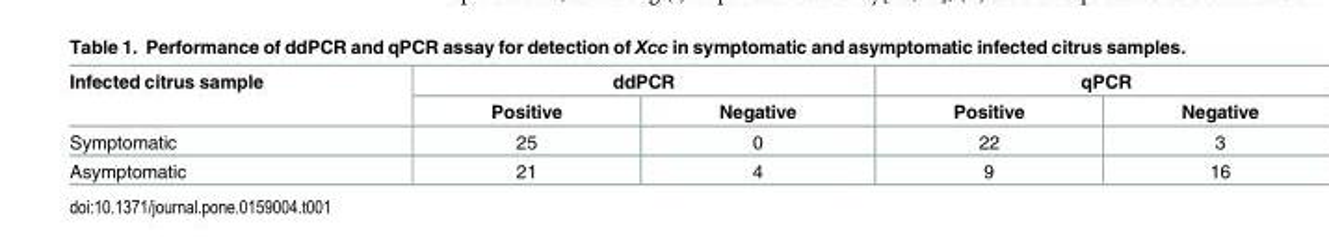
<table><thead><tr><td rowspan="2">Infected citrus sample</td><td colspan="2">ddPCR</td><td colspan="2">qPCR</td></tr><tr><td>Positive</td><td>Negative</td><td>Positive</td><td>Negative</td></tr></thead><tbody><tr><td>Symptomatic</td><td>25</td><td>0</td><td>22</td><td>3</td></tr><tr><td>Asymptomatic</td><td>21</td><td>4</td><td>9</td><td>16</td></tr></tbody></table>